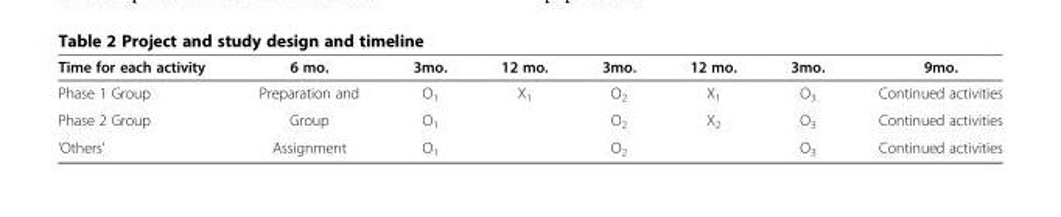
<table><thead><tr><td>Time for each activity</td><td>6 mo.</td><td>3mo.</td><td>12 mo.</td><td>3mo.</td><td>12 mo.</td><td>3mo.</td><td>9mo.</td></tr></thead><tbody><tr><td>Phase 1 Group</td><td>Preparation and</td><td>O<sub>1</sub></td><td>X<sub>1</sub></td><td>O<sub>2</sub></td><td>X<sub>1</sub></td><td>O<sub>3</sub></td><td>Continued activities</td></tr><tr><td>Phase 2 Group</td><td>Group</td><td>O<sub>1</sub></td><td></td><td>O<sub>2</sub></td><td>X<sub>2</sub></td><td>O<sub>3</sub></td><td>Continued activities</td></tr><tr><td>‘Others’</td><td>Assignment</td><td>O<sub>1</sub></td><td></td><td>O<sub>2</sub></td><td></td><td>O<sub>3</sub></td><td>Continued activities</td></tr></tbody></table>